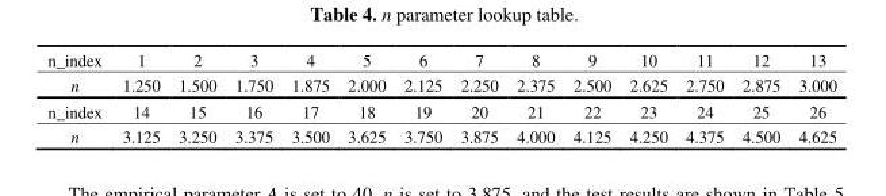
<table><tbody><tr><td>n_index</td><td>1</td><td>2</td><td>3</td><td>4</td><td>5</td><td>6</td><td>7</td><td>8</td><td>9</td><td>10</td><td>11</td><td>12</td><td>13</td></tr><tr><td>n</td><td>1.250</td><td>1.500</td><td>1.750</td><td>1.875</td><td>2.000</td><td>2.125</td><td>2.250</td><td>2.375</td><td>2.500</td><td>2.625</td><td>2.750</td><td>2.875</td><td>3.000</td></tr><tr><td>n_index</td><td>14</td><td>15</td><td>16</td><td>17</td><td>18</td><td>19</td><td>20</td><td>21</td><td>22</td><td>23</td><td>24</td><td>25</td><td>26</td></tr><tr><td>n</td><td>3.125</td><td>3.250</td><td>3.375</td><td>3.500</td><td>3.625</td><td>3.750</td><td>3.875</td><td>4.000</td><td>4.125</td><td>4.250</td><td>4.375</td><td>4.500</td><td>4.625</td></tr></tbody></table>